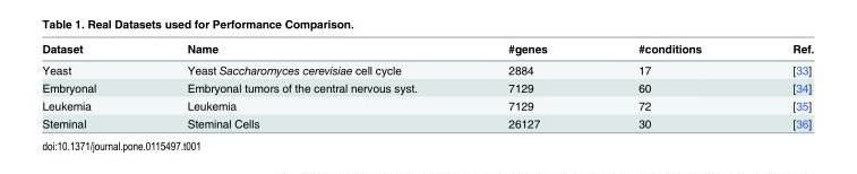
<table><thead><tr><td>Dataset</td><td>Name</td><td>#genes</td><td>#conditions</td><td>Ref.</td></tr></thead><tbody><tr><td>Yeast</td><td>Yeast Saccharomyces cerevisiae cell cycle</td><td>2884</td><td>17</td><td>[33]</td></tr><tr><td>Embryonal</td><td>Embryonal tumors of the central nervous syst.</td><td>7129</td><td>60</td><td>[34]</td></tr><tr><td>Leukemia</td><td>Leukemia</td><td>7129</td><td>72</td><td>[35]</td></tr><tr><td>Steminal</td><td>Steminal Cells</td><td>26127</td><td>30</td><td>[36]</td></tr></tbody></table>